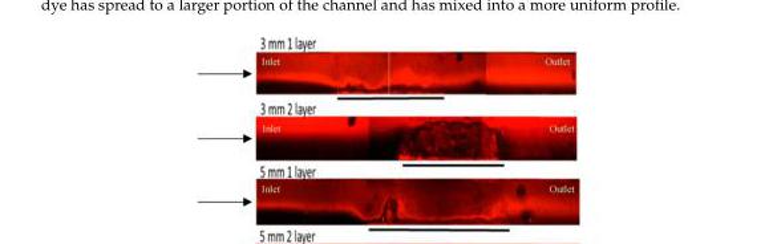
<table><thead><tr><td>Morphology</td><td>Mixing Index (inlet)</td><td>Standard Deviation</td><td>Mixing Index (outlet)</td><td>Standard Deviation</td><td>Difference from Control Outlet</td><td>Standard Deviation</td></tr></thead><tbody><tr><td>Control: No Fibres</td><td>0.8</td><td>0.17</td><td>0.71</td><td>0.12</td><td>-</td><td>-</td></tr><tr><td>3 mm 1 layer</td><td>0.56</td><td>0.20</td><td>0.41</td><td>0.13</td><td>0.30</td><td>0.17</td></tr><tr><td>3 mm 2 layer</td><td>0.53</td><td>0.07</td><td>0.36</td><td>0.09</td><td>0.35</td><td>0.15</td></tr><tr><td>5 mm 1 layer</td><td>0.64</td><td>0.08</td><td>0.45</td><td>0.11</td><td>0.26</td><td>0.16</td></tr><tr><td>5 mm 2 layer</td><td>0.45</td><td>0.08</td><td>0.29</td><td>0.09</td><td>0.42</td><td>0.15</td></tr><tr><td>10 mm 1 layer</td><td>0.74</td><td>0.22</td><td>0.52</td><td>0.07</td><td>0.19</td><td>0.14</td></tr><tr><td>10 mm 2 layer</td><td>0.57</td><td>0.21</td><td>0.32</td><td>0.06</td><td>0.39</td><td>0.13</td></tr></tbody></table>